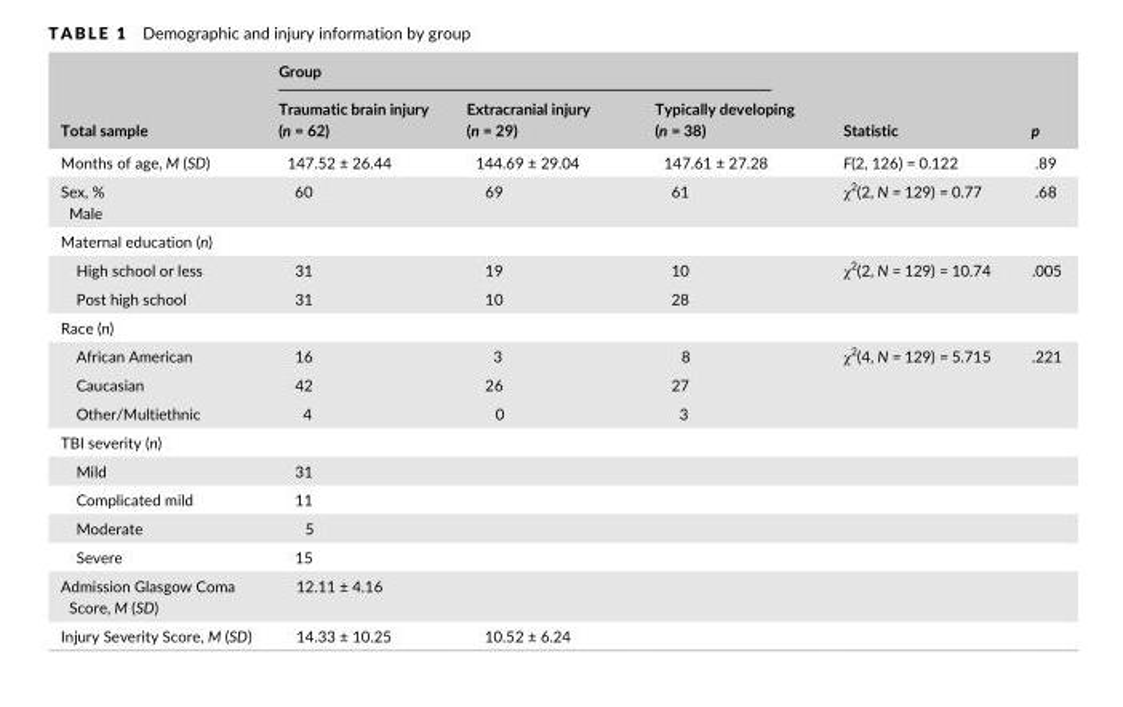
<table><thead><tr><td rowspan="2">Total sample</td><td colspan="3">Group</td><td rowspan="2">Statistic</td><td rowspan="2">p</td></tr><tr><td>Traumatic brain injury (n = 62)</td><td>Extracranial injury (n = 29)</td><td>Typically developing (n = 38)</td></tr></thead><tbody><tr><td>Months of age, M (SD)</td><td>147.52 ± 26.44</td><td>144.69 ± 29.04</td><td>147.61 ± 27.28</td><td>F(2, 126) = 0.122</td><td>.89</td></tr><tr><td>Sex, % Male</td><td>60</td><td>69</td><td>61</td><td>χ<sup>2</sup>(2, N = 129) = 0.77</td><td>.68</td></tr><tr><td colspan="6">Maternal education (n)</td></tr><tr><td>High school or less</td><td>31</td><td>19</td><td>10</td><td rowspan="2">χ<sup>2</sup>(2, N = 129) = 10.74</td><td rowspan="2">.005</td></tr><tr><td>Post high school</td><td>31</td><td>10</td><td>28</td></tr><tr><td colspan="6">Race (n)</td></tr><tr><td>African American</td><td>16</td><td>3</td><td>8</td><td rowspan="3">χ<sup>2</sup>(4, N = 129) = 5.715</td><td rowspan="3">.221</td></tr><tr><td>Caucasian</td><td>42</td><td>26</td><td>27</td></tr><tr><td>Other/Multiethnic</td><td>4</td><td>0</td><td>3</td></tr><tr><td colspan="6">TBI severity (n)</td></tr><tr><td>Mild</td><td>31</td><td></td><td></td><td></td><td></td></tr><tr><td>Complicated mild</td><td>11</td><td></td><td></td><td></td><td></td></tr><tr><td>Moderate</td><td>5</td><td></td><td></td><td></td><td></td></tr><tr><td>Severe</td><td>15</td><td></td><td></td><td></td><td></td></tr><tr><td>Admission Glasgow Coma Score, M (SD)</td><td>12.11 ± 4.16</td><td></td><td></td><td></td><td></td></tr><tr><td>Injury Severity Score, M (SD)</td><td>14.33 ± 10.25</td><td>10.52 ± 6.24</td><td></td><td></td><td></td></tr></tbody></table>